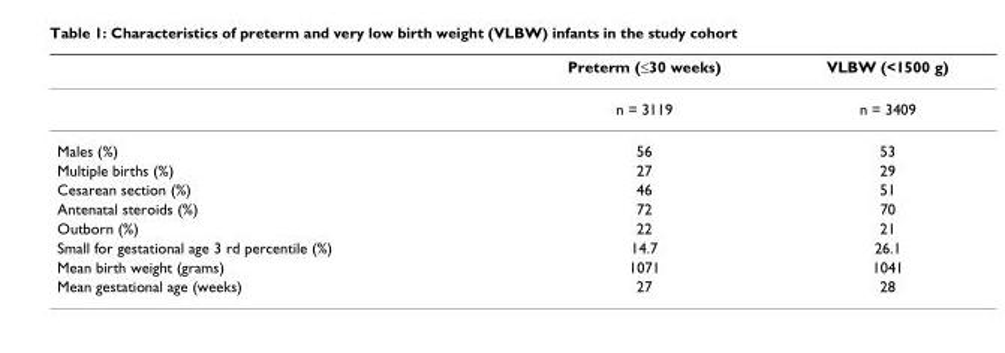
<table><thead><tr><td></td><td>Preterm (≤30 weeks)</td><td>VLBW (&lt;1500 g)</td></tr></thead><tbody><tr><td></td><td>n = 3119</td><td>n = 3409</td></tr><tr><td>Males (%)</td><td>56</td><td>53</td></tr><tr><td>Multiple births (%)</td><td>27</td><td>29</td></tr><tr><td>Cesarean section (%)</td><td>46</td><td>51</td></tr><tr><td>Antenatal steroids (%)</td><td>72</td><td>70</td></tr><tr><td>Outborn (%)</td><td>22</td><td>21</td></tr><tr><td>Small for gestational age 3 rd percentile (%)</td><td>14.7</td><td>26.1</td></tr><tr><td>Mean birth weight (grams)</td><td>1071</td><td>1041</td></tr><tr><td>Mean gestational age (weeks)</td><td>27</td><td>28</td></tr></tbody></table>